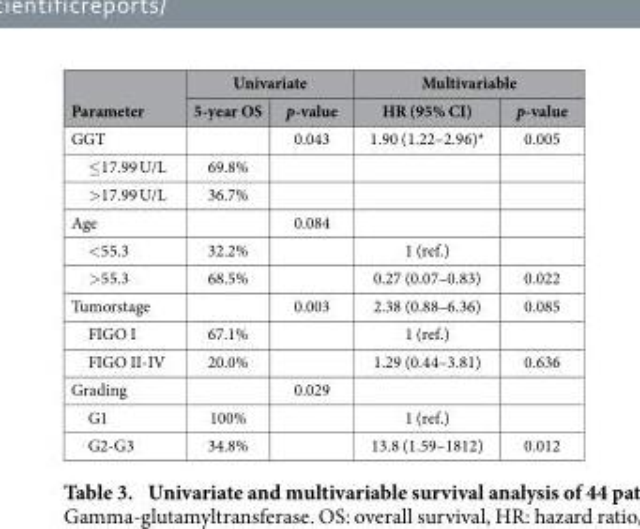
<table><thead><tr><td rowspan="2">Parameter</td><td colspan="2">Univariate</td><td colspan="2">Multivariable</td></tr><tr><td>5-year OS</td><td>p-value</td><td>HR (95% CI)</td><td>p-value</td></tr></thead><tbody><tr><td>GGT</td><td></td><td>0.043</td><td>1.90 (1.22–2.96)*</td><td>0.005</td></tr><tr><td>≤ 17.99 U/L</td><td>69.8%</td><td></td><td></td><td></td></tr><tr><td>&gt; 17.99 U/L</td><td>36.7%</td><td></td><td></td><td></td></tr><tr><td>Age</td><td></td><td>0.084</td><td></td><td></td></tr><tr><td>&lt; 55.3</td><td>32.2%</td><td></td><td>1 (ref.)</td><td></td></tr><tr><td>&gt; 55.3</td><td>68.5%</td><td></td><td>0.27 (0.07–0.83)</td><td>0.022</td></tr><tr><td>Tumorstage</td><td></td><td>0.003</td><td>2.38 (0.88–6.36)</td><td>0.085</td></tr><tr><td>FIGO I</td><td>67.1%</td><td></td><td>1 (ref.)</td><td></td></tr><tr><td>FIGO II-IV</td><td>20.0%</td><td></td><td>1.29 (0.44–3.81)</td><td>0.636</td></tr><tr><td>Grading</td><td></td><td>0.029</td><td></td><td></td></tr><tr><td>G1</td><td>100%</td><td></td><td>1 (ref.)</td><td></td></tr><tr><td>G2-G3</td><td>34.8%</td><td></td><td>13.8 (1.59–1812)</td><td>0.012</td></tr></tbody></table>